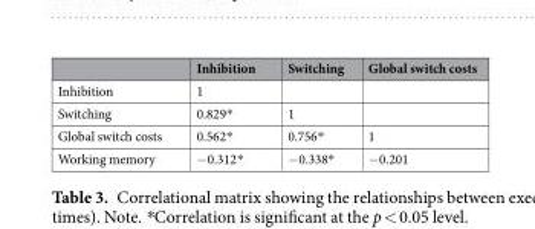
<table><thead><tr><td></td><td>Inhibition</td><td>Switching</td><td>Global switch costs</td></tr></thead><tbody><tr><td>Inhibition</td><td>1</td><td></td><td></td></tr><tr><td>Switching</td><td>0.829*</td><td>1</td><td></td></tr><tr><td>Global switch costs</td><td>0.562*</td><td>0.756*</td><td>1</td></tr><tr><td>Working memory</td><td>−0.312*</td><td>−0.338*</td><td>−0.201</td></tr></tbody></table>